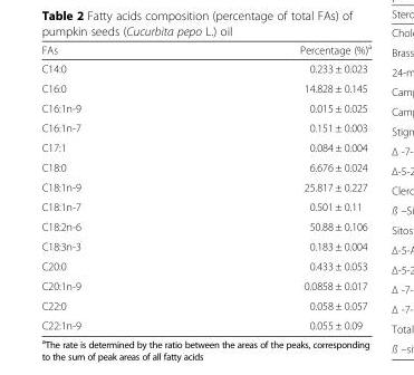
<table><thead><tr><td>FAs</td><td>Percentage (%)a</td></tr></thead><tbody><tr><td>C14:0</td><td>0.233 ± 0.023</td></tr><tr><td>C16:0</td><td>14.828 ± 0.145</td></tr><tr><td>C16:1n-9</td><td>0.015 ± 0.025</td></tr><tr><td>C16:1n-7</td><td>0.151 ± 0.003</td></tr><tr><td>C17:1</td><td>0.084 ± 0.004</td></tr><tr><td>C18:0</td><td>6.676 ± 0.024</td></tr><tr><td>C18:1n-9</td><td>25.817 ± 0.227</td></tr><tr><td>C18:1n-7</td><td>0.501 ± 0.11</td></tr><tr><td>C18:2n-6</td><td>50.88 ± 0.106</td></tr><tr><td>C18:3n-3</td><td>0.183 ± 0.004</td></tr><tr><td>C20:0</td><td>0.433 ± 0.053</td></tr><tr><td>C20:1n-9</td><td>0.0858 ± 0.017</td></tr><tr><td>C22:0</td><td>0.058 ± 0.057</td></tr><tr><td>C22:1n-9</td><td>0.055 ± 0.09</td></tr></tbody></table>